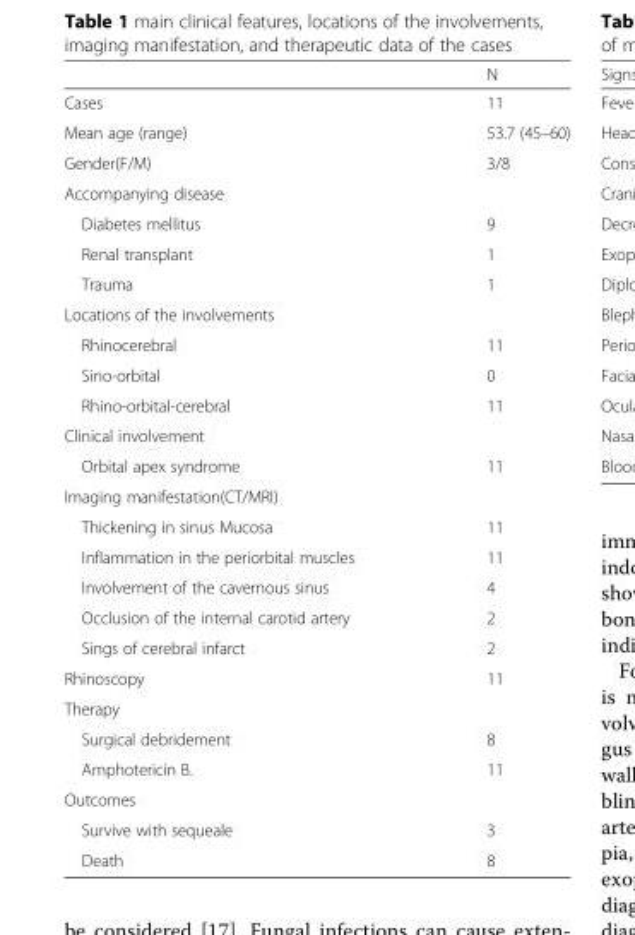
<table><thead><tr><td></td><td>N</td></tr></thead><tbody><tr><td>Cases</td><td>11</td></tr><tr><td>Mean age (range)</td><td>53.7 (45–60)</td></tr><tr><td>Gender(F/M)</td><td>3/8</td></tr><tr><td colspan="2">Accompanying disease</td></tr><tr><td>Diabetes mellitus</td><td>9</td></tr><tr><td>Renal transplant</td><td>1</td></tr><tr><td>Trauma</td><td>1</td></tr><tr><td colspan="2">Locations of the involvements</td></tr><tr><td>Rhinocerebral</td><td>11</td></tr><tr><td>Sino-orbital</td><td>0</td></tr><tr><td>Rhino-orbital-cerebral</td><td>11</td></tr><tr><td colspan="2">Clinical involvement</td></tr><tr><td>Orbital apex syndrome</td><td>11</td></tr><tr><td colspan="2">Imaging manifestation(CT/MRI)</td></tr><tr><td>Thickening in sinus Mucosa</td><td>11</td></tr><tr><td>Inflammation in the periorbital muscles</td><td>11</td></tr><tr><td>Involvement of the cavernous sinus</td><td>4</td></tr><tr><td>Occlusion of the internal carotid artery</td><td>2</td></tr><tr><td>Sings of cerebral infarct</td><td>2</td></tr><tr><td>Rhinoscopy</td><td>11</td></tr><tr><td colspan="2">Therapy</td></tr><tr><td>Surgical debridement</td><td>8</td></tr><tr><td>Amphotericin B.</td><td>11</td></tr><tr><td colspan="2">Outcomes</td></tr><tr><td>Survive with sequeale</td><td>3</td></tr><tr><td>Death</td><td>8</td></tr></tbody></table>